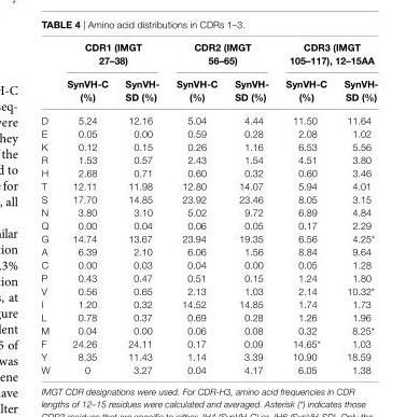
<table><thead><tr><td rowspan="2"></td><td colspan="2">cDr1 (iMgT 27–38)</td><td colspan="2">cDr2 (iMgT 56–65)</td><td colspan="2">cDr3 (iMgT 105–117), 12–15aa</td></tr><tr><td>synVh-c (%)</td><td>synVh- sD (%)</td><td>synVh-c (%)</td><td>synVh- sD (%)</td><td>synVh-c (%)</td><td>synVh- sD (%)</td></tr></thead><tbody><tr><td>D</td><td>5.24</td><td>12.16</td><td>5.04</td><td>4.44</td><td>11.50</td><td>11.64</td></tr><tr><td>E</td><td>0.05</td><td>0.00</td><td>0.59</td><td>0.28</td><td>2.08</td><td>1.02</td></tr><tr><td>K</td><td>0.12</td><td>0.15</td><td>0.26</td><td>1.16</td><td>6.53</td><td>5.56</td></tr><tr><td>R</td><td>1.53</td><td>0.57</td><td>2.43</td><td>1.54</td><td>4.51</td><td>3.80</td></tr><tr><td>H</td><td>2.68</td><td>0.71</td><td>0.60</td><td>0.32</td><td>0.60</td><td>3.46</td></tr><tr><td>T</td><td>12.11</td><td>11.98</td><td>12.80</td><td>14.07</td><td>5.94</td><td>4.01</td></tr><tr><td>S</td><td>17.70</td><td>14.85</td><td>23.92</td><td>23.46</td><td>8.05</td><td>3.15</td></tr><tr><td>N</td><td>3.80</td><td>3.10</td><td>5.02</td><td>9.72</td><td>6.89</td><td>4.84</td></tr><tr><td>Q</td><td>0.00</td><td>0.04</td><td>0.06</td><td>0.05</td><td>0.17</td><td>2.29</td></tr><tr><td>G</td><td>14.74</td><td>13.67</td><td>23.94</td><td>19.35</td><td>6.56</td><td>4.25*</td></tr><tr><td>A</td><td>6.39</td><td>2.10</td><td>6.06</td><td>1.56</td><td>8.84</td><td>9.64</td></tr><tr><td>C</td><td>0.00</td><td>0.03</td><td>0.04</td><td>0.00</td><td>0.05</td><td>1.28</td></tr><tr><td>P</td><td>0.43</td><td>0.47</td><td>0.51</td><td>0.15</td><td>1.24</td><td>1.80</td></tr><tr><td>V</td><td>0.56</td><td>0.65</td><td>2.13</td><td>1.03</td><td>2.14</td><td>10.32*</td></tr><tr><td>I</td><td>1.20</td><td>0.32</td><td>14.52</td><td>14.85</td><td>1.74</td><td>1.73</td></tr><tr><td>L</td><td>0.78</td><td>0.37</td><td>0.69</td><td>0.28</td><td>1.26</td><td>1.96</td></tr><tr><td>M</td><td>0.04</td><td>0.00</td><td>0.06</td><td>0.08</td><td>0.32</td><td>8.25*</td></tr><tr><td>F</td><td>24.26</td><td>24.11</td><td>0.17</td><td>0.09</td><td>14.65*</td><td>1.03</td></tr><tr><td>Y</td><td>8.35</td><td>11.43</td><td>1.14</td><td>3.39</td><td>10.90</td><td>18.59</td></tr><tr><td>W</td><td>0</td><td>3.27</td><td>0.04</td><td>4.17</td><td>6.05</td><td>1.38</td></tr></tbody></table>